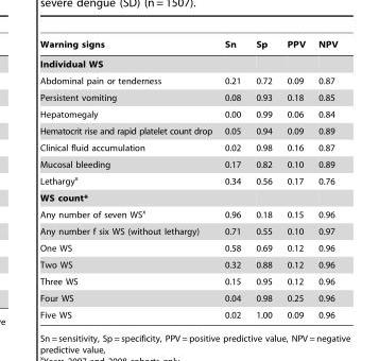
<table><thead><tr><td>Warning signs</td><td>Sn</td><td>Sp</td><td>PPV</td><td>NPV</td></tr></thead><tbody><tr><td colspan="5">Individual WS</td></tr><tr><td>Abdominal pain or tenderness</td><td>0.21</td><td>0.72</td><td>0.09</td><td>0.87</td></tr><tr><td>Persistent vomiting</td><td>0.08</td><td>0.93</td><td>0.18</td><td>0.85</td></tr><tr><td>Hepatomegaly</td><td>0.00</td><td>0.99</td><td>0.06</td><td>0.84</td></tr><tr><td>Hematocrit rise and rapid platelet count drop</td><td>0.05</td><td>0.94</td><td>0.09</td><td>0.89</td></tr><tr><td>Clinical fluid accumulation</td><td>0.02</td><td>0.98</td><td>0.16</td><td>0.87</td></tr><tr><td>Mucosal bleeding</td><td>0.17</td><td>0.82</td><td>0.10</td><td>0.89</td></tr><tr><td>Lethargy<sup>x</sup></td><td>0.34</td><td>0.56</td><td>0.17</td><td>0.76</td></tr><tr><td colspan="5">WS count*</td></tr><tr><td>Any number of seven WS<sup>x</sup></td><td>0.96</td><td>0.18</td><td>0.15</td><td>0.96</td></tr><tr><td>Any number f six WS (without lethargy)</td><td>0.71</td><td>0.55</td><td>0.10</td><td>0.97</td></tr><tr><td>One WS</td><td>0.58</td><td>0.69</td><td>0.12</td><td>0.96</td></tr><tr><td>Two WS</td><td>0.32</td><td>0.88</td><td>0.12</td><td>0.96</td></tr><tr><td>Three WS</td><td>0.15</td><td>0.95</td><td>0.12</td><td>0.96</td></tr><tr><td>Four WS</td><td>0.04</td><td>0.98</td><td>0.25</td><td>0.96</td></tr><tr><td>Five WS</td><td>0.02</td><td>1.00</td><td>0.09</td><td>0.96</td></tr></tbody></table>